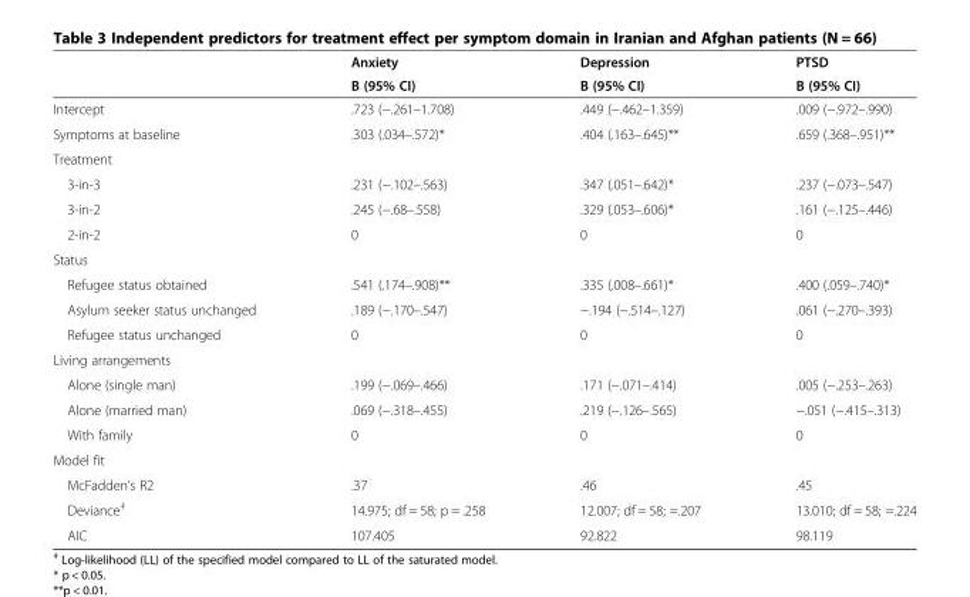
<table><thead><tr><td rowspan="2"></td><td rowspan="2">Anxiety B (95% CI)</td><td rowspan="2">Depression B (95% CI)</td><td rowspan="2">PTSD B (95% CI)</td></tr><tr></tr></thead><tbody><tr><td>Intercept</td><td>.723 (−.261–1.708)</td><td>.449 (−.462–1.359)</td><td>.009 (−.972–.990)</td></tr><tr><td>Symptoms at baseline</td><td>.303 (.034–.572)*</td><td>.404 (.163–.645)**</td><td>.659 (.368–.951)**</td></tr><tr><td colspan="4">Treatment</td></tr><tr><td>3-in-3</td><td>.231 (−.102–.563)</td><td>.347 (.051–.642)*</td><td>.237 (−.073–.547)</td></tr><tr><td>3-in-2</td><td>.245 (−.68–.558)</td><td>.329 (.053–.606)*</td><td>.161 (−.125–.446)</td></tr><tr><td>2-in-2</td><td>0</td><td>0</td><td>0</td></tr><tr><td colspan="4">Status</td></tr><tr><td>Refugee status obtained</td><td>.541 (.174–.908)**</td><td>.335 (.008–.661)*</td><td>.400 (.059–.740)*</td></tr><tr><td>Asylum seeker status unchanged</td><td>.189 (−.170–.547)</td><td>−.194 (−.514–.127)</td><td>.061 (−.270–.393)</td></tr><tr><td>Refugee status unchanged</td><td>0</td><td>0</td><td>0</td></tr><tr><td colspan="4">Living arrangements</td></tr><tr><td>Alone (single man)</td><td>.199 (−.069–.466)</td><td>.171 (−.071–.414)</td><td>.005 (−.253–.263)</td></tr><tr><td>Alone (married man)</td><td>.069 (−.318–.455)</td><td>.219 (−.126–.565)</td><td>−.051 (−.415–.313)</td></tr><tr><td>With family</td><td>0</td><td>0</td><td>0</td></tr><tr><td colspan="4">Model fit</td></tr><tr><td>McFadden’s R2</td><td>.37</td><td>.46</td><td>.45</td></tr><tr><td>Deviance<sup>‡</sup></td><td>14.975; df = 58; p = .258</td><td>12.007; df = 58; =.207</td><td>13.010; df = 58; =.224</td></tr><tr><td>AIC</td><td>107.405</td><td>92.822</td><td>98.119</td></tr></tbody></table>